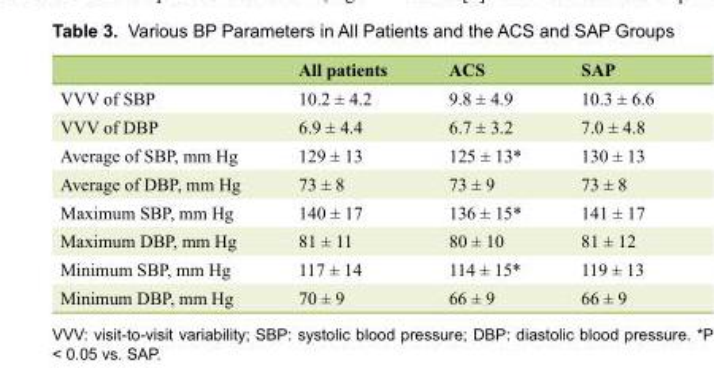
<table><thead><tr><td></td><td>All patients</td><td>ACS</td><td>SAP</td></tr></thead><tbody><tr><td>VVV of SBP</td><td>10.2 ± 4.2</td><td>9.8 ± 4.9</td><td>10.3 ± 6.6</td></tr><tr><td>VVV of DBP</td><td>6.9 ± 4.4</td><td>6.7 ± 3.2</td><td>7.0 ± 4.8</td></tr><tr><td>Average of SBP, mm Hg</td><td>129 ± 13</td><td>125 ± 13*</td><td>130 ± 13</td></tr><tr><td>Average of DBP, mm Hg</td><td>73 ± 8</td><td>73 ± 9</td><td>73 ± 8</td></tr><tr><td>Maximum SBP, mm Hg</td><td>140 ± 17</td><td>136 ± 15*</td><td>141 ± 17</td></tr><tr><td>Maximum DBP, mm Hg</td><td>81 ± 11</td><td>80 ± 10</td><td>81 ± 12</td></tr><tr><td>Minimum SBP, mm Hg</td><td>117 ± 14</td><td>114 ± 15*</td><td>119 ± 13</td></tr><tr><td>Minimum DBP, mm Hg</td><td>70 ± 9</td><td>66 ± 9</td><td>66 ± 9</td></tr></tbody></table>